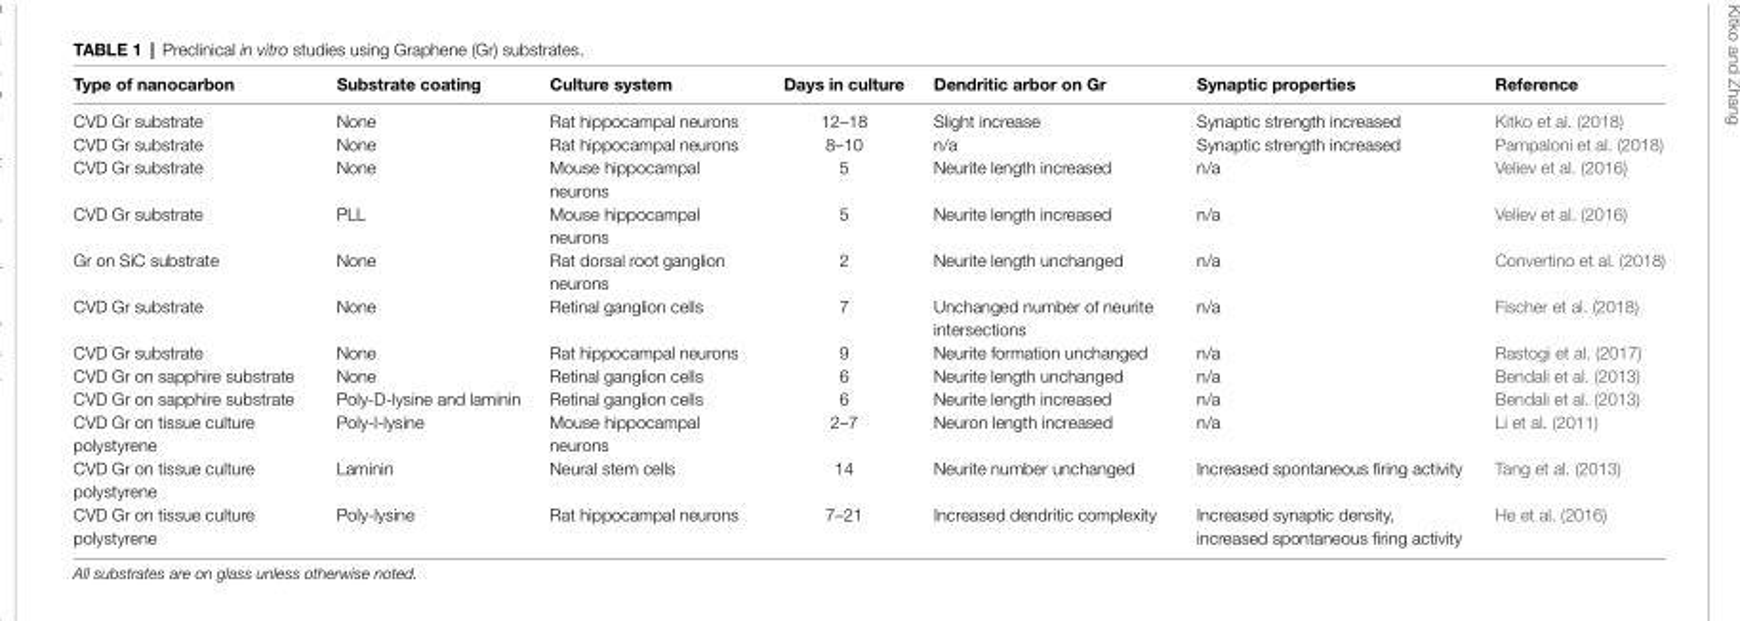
<table><thead><tr><td>Type of nanocarbon</td><td>Substrate coating</td><td>Culture system</td><td>Days in culture</td><td>Dendritic arbor on Gr</td><td>Synaptic properties</td><td>Reference</td></tr></thead><tbody><tr><td>CVD Gr substrate</td><td>None</td><td>Rat hippocampal neurons</td><td>12–18</td><td>Slight increase</td><td>Synaptic strength increased</td><td>Kitko et al. (2018)</td></tr><tr><td>CVD Gr substrate</td><td>None</td><td>Rat hippocampal neurons</td><td>8–10</td><td>n/a</td><td>Synaptic strength increased</td><td>Pampaloni et al. (2018)</td></tr><tr><td>CVD Gr substrate</td><td>None</td><td>Mouse hippocampal neurons</td><td>5</td><td>Neurite length increased</td><td>n/a</td><td>Veliev et al. (2016)</td></tr><tr><td>CVD Gr substrate</td><td>PLL</td><td>Mouse hippocampal neurons</td><td>5</td><td>Neurite length increased</td><td>n/a</td><td>Veliev et al. (2016)</td></tr><tr><td>Gr on SiC substrate</td><td>None</td><td>Rat dorsal root ganglion neurons</td><td>2</td><td>Neurite length unchanged</td><td>n/a</td><td>Convertino et al. (2018)</td></tr><tr><td>CVD Gr substrate</td><td>None</td><td>Retinal ganglion cells</td><td>7</td><td>Unchanged number of neurite intersections</td><td>n/a</td><td>Fischer et al. (2018)</td></tr><tr><td>CVD Gr substrate</td><td>None</td><td>Rat hippocampal neurons</td><td>9</td><td>Neurite formation unchanged</td><td>n/a</td><td>Rastogi et al. (2017)</td></tr><tr><td>CVD Gr on sapphire substrate</td><td>None</td><td>Retinal ganglion cells</td><td>6</td><td>Neurite length unchanged</td><td>n/a</td><td>Bendali et al. (2013)</td></tr><tr><td>CVD Gr on sapphire substrate</td><td>Poly-D-lysine and laminin</td><td>Retinal ganglion cells</td><td>6</td><td>Neurite length increased</td><td>n/a</td><td>Bendali et al. (2013)</td></tr><tr><td>CVD Gr on tissue culture polystyrene</td><td>Poly-l-lysine</td><td>Mouse hippocampal neurons</td><td>2–7</td><td>Neuron length increased</td><td>n/a</td><td>Li et al. (2011)</td></tr><tr><td>CVD Gr on tissue culture polystyrene</td><td>Laminin</td><td>Neural stem cells</td><td>14</td><td>Neurite number unchanged</td><td>Increased spontaneous firing activity</td><td>Tang et al. (2013)</td></tr><tr><td>CVD Gr on tissue culture polystyrene</td><td>Poly-lysine</td><td>Rat hippocampal neurons</td><td>7–21</td><td>Increased dendritic complexity</td><td>Increased synaptic density, increased spontaneous firing activity</td><td>He et al. (2016)</td></tr></tbody></table>